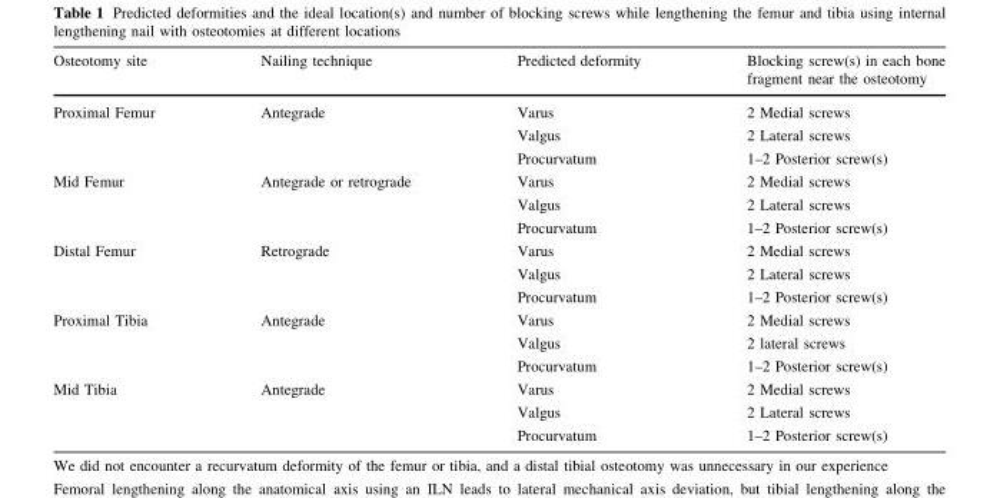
<table><thead><tr><td>Osteotomy site</td><td>Nailing technique</td><td>Predicted deformity</td><td>Blocking screw(s) in each bone fragment near the osteotomy</td></tr></thead><tbody><tr><td rowspan="3">Proximal Femur</td><td>Antegrade</td><td>Varus</td><td>2 Medial screws</td></tr><tr><td></td><td>Valgus</td><td>2 Lateral screws</td></tr><tr><td></td><td>Procurvatum</td><td>1–2 Posterior screw(s)</td></tr><tr><td rowspan="3">Mid Femur</td><td>Antegrade or retrograde</td><td>Varus</td><td>2 Medial screws</td></tr><tr><td></td><td>Valgus</td><td>2 Lateral screws</td></tr><tr><td></td><td>Procurvatum</td><td>1–2 Posterior screw(s)</td></tr><tr><td rowspan="3">Distal Femur</td><td>Retrograde</td><td>Varus</td><td>2 Medial screws</td></tr><tr><td></td><td>Valgus</td><td>2 Lateral screws</td></tr><tr><td></td><td>Procurvatum</td><td>1–2 Posterior screw(s)</td></tr><tr><td rowspan="3">Proximal Tibia</td><td>Antegrade</td><td>Varus</td><td>2 Medial screws</td></tr><tr><td></td><td>Valgus</td><td>2 lateral screws</td></tr><tr><td></td><td>Procurvatum</td><td>1–2 Posterior screw(s)</td></tr><tr><td rowspan="3">Mid Tibia</td><td>Antegrade</td><td>Varus</td><td>2 Medial screws</td></tr><tr><td></td><td>Valgus</td><td>2 Lateral screws</td></tr><tr><td></td><td>Procurvatum</td><td>1–2 Posterior screw(s)</td></tr></tbody></table>